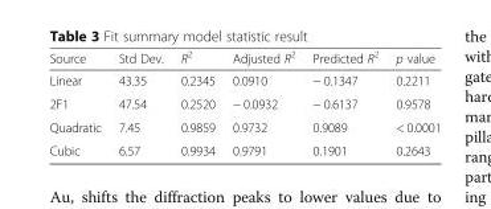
<table><thead><tr><td>Source</td><td>Std Dev.</td><td>R<sup>2</sup></td><td>Adjusted R<sup>2</sup></td><td>Predicted R<sup>2</sup></td><td>p value</td></tr></thead><tbody><tr><td>Linear</td><td>43.35</td><td>0.2345</td><td>0.0910</td><td>− 0.1347</td><td>0.2211</td></tr><tr><td>2F1</td><td>47.54</td><td>0.2520</td><td>− 0.0932</td><td>− 0.6137</td><td>0.9578</td></tr><tr><td>Quadratic</td><td>7.45</td><td>0.9859</td><td>0.9732</td><td>0.9089</td><td>&lt; 0.0001</td></tr><tr><td>Cubic</td><td>6.57</td><td>0.9934</td><td>0.9791</td><td>0.1901</td><td>0.2643</td></tr></tbody></table>